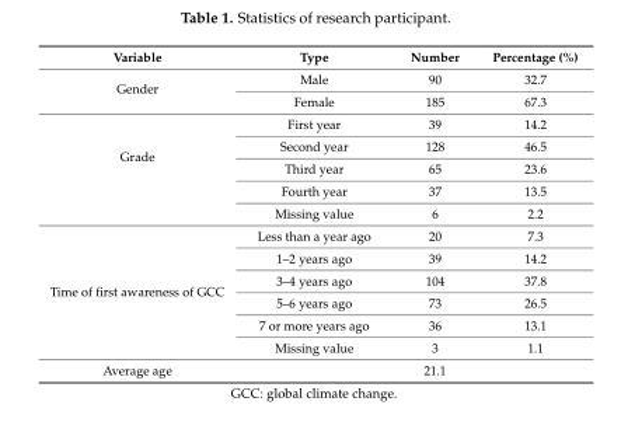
<table><thead><tr><td>Variable</td><td>Type</td><td>Number</td><td>Percentage (%)</td></tr></thead><tbody><tr><td rowspan="2">Gender</td><td>Male</td><td>90</td><td>32.7</td></tr><tr><td>Female</td><td>185</td><td>67.3</td></tr><tr><td rowspan="5">Grade</td><td>First year</td><td>39</td><td>14.2</td></tr><tr><td>Second year</td><td>128</td><td>46.5</td></tr><tr><td>Third year</td><td>65</td><td>23.6</td></tr><tr><td>Fourth year</td><td>37</td><td>13.5</td></tr><tr><td>Missing value</td><td>6</td><td>2.2</td></tr><tr><td rowspan="6">Time of first awareness of GCC</td><td>Less than a year ago</td><td>20</td><td>7.3</td></tr><tr><td>1–2 years ago</td><td>39</td><td>14.2</td></tr><tr><td>3–4 years ago</td><td>104</td><td>37.8</td></tr><tr><td>5–6 years ago</td><td>73</td><td>26.5</td></tr><tr><td>7 or more years ago</td><td>36</td><td>13.1</td></tr><tr><td>Missing value</td><td>3</td><td>1.1</td></tr><tr><td>Average age</td><td></td><td>21.1</td><td></td></tr></tbody></table>